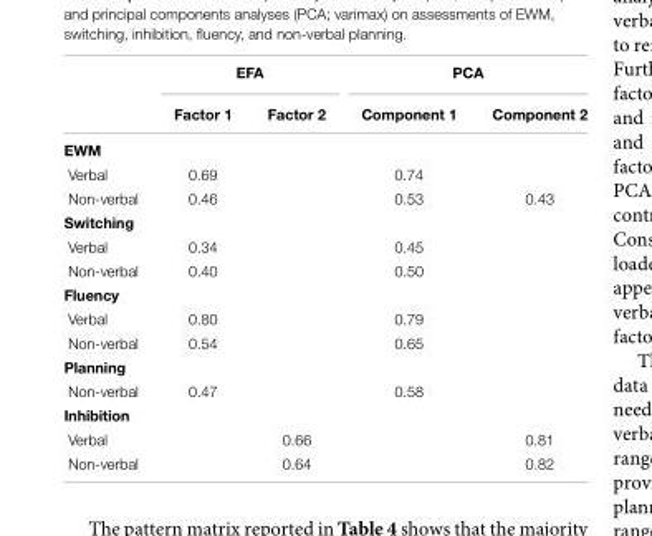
<table><thead><tr><td rowspan="2"></td><td colspan="2">EFA</td><td colspan="2">PCA</td></tr><tr><td>Factor 1</td><td>Factor 2</td><td>Component 1</td><td>Component 2</td></tr></thead><tbody><tr><td colspan="5">EWM</td></tr><tr><td>Verbal</td><td>0.69</td><td></td><td>0.74</td><td></td></tr><tr><td>Non-verbal</td><td>0.46</td><td></td><td>0.53</td><td>0.43</td></tr><tr><td colspan="5">Switching</td></tr><tr><td>Verbal</td><td>0.34</td><td></td><td>0.45</td><td></td></tr><tr><td>Non-verbal</td><td>0.40</td><td></td><td>0.50</td><td></td></tr><tr><td colspan="5">Fluency</td></tr><tr><td>Verbal</td><td>0.80</td><td></td><td>0.79</td><td></td></tr><tr><td>Non-verbal</td><td>0.54</td><td></td><td>0.65</td><td></td></tr><tr><td colspan="5">Planning</td></tr><tr><td>Non-verbal</td><td>0.47</td><td></td><td>0.58</td><td></td></tr><tr><td colspan="5">Inhibition</td></tr><tr><td>Verbal</td><td></td><td>0.66</td><td></td><td>0.81</td></tr><tr><td>Non-verbal</td><td></td><td>0.64</td><td></td><td>0.82</td></tr></tbody></table>